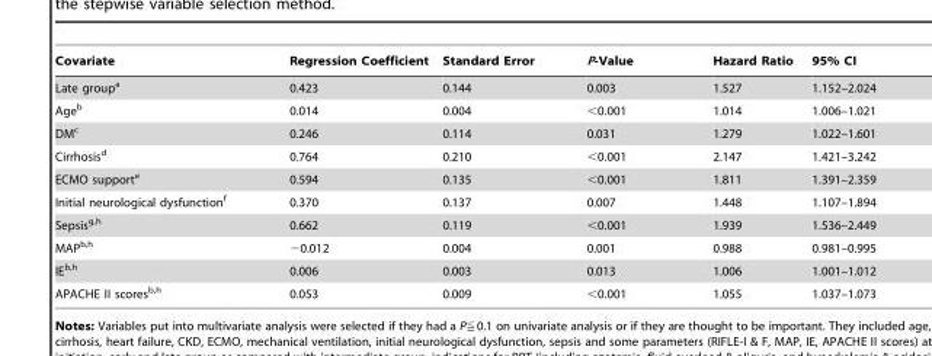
<table><thead><tr><td>Covariate</td><td>Regression Coefficient</td><td>Standard Error</td><td>P-Value</td><td>Hazard Ratio</td><td>95% CI</td></tr></thead><tbody><tr><td>Late group<sup>a</sup></td><td>0.423</td><td>0.144</td><td>0.003</td><td>1.527</td><td>1.152–2.024</td></tr><tr><td>Age<sup>b</sup></td><td>0.014</td><td>0.004</td><td>&lt;0.001</td><td>1.014</td><td>1.006–1.021</td></tr><tr><td>DM<sup>c</sup></td><td>0.246</td><td>0.114</td><td>0.031</td><td>1.279</td><td>1.022–1.601</td></tr><tr><td>Cirrhosis<sup>d</sup></td><td>0.764</td><td>0.210</td><td>&lt;0.001</td><td>2.147</td><td>1.421–3.242</td></tr><tr><td>ECMO support<sup>e</sup></td><td>0.594</td><td>0.135</td><td>&lt;0.001</td><td>1.811</td><td>1.391–2.359</td></tr><tr><td>Initial neurological dysfunction<sup>f</sup></td><td>0.370</td><td>0.137</td><td>0.007</td><td>1.448</td><td>1.107–1.894</td></tr><tr><td>Sepsisg,h</td><td>0.662</td><td>0.119</td><td>&lt;0.001</td><td>1.939</td><td>1.536–2.449</td></tr><tr><td>MAPb,h</td><td>−0.012</td><td>0.004</td><td>0.001</td><td>0.988</td><td>0.981–0.995</td></tr><tr><td>IEb,h</td><td>0.006</td><td>0.003</td><td>0.013</td><td>1.006</td><td>1.001–1.012</td></tr><tr><td>APACHE II scoresb,h</td><td>0.053</td><td>0.009</td><td>&lt;0.001</td><td>1.055</td><td>1.037–1.073</td></tr></tbody></table>